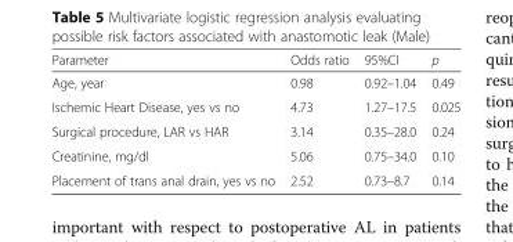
<table><thead><tr><td>Parameter</td><td>Odds ratio</td><td>95%CI</td><td>p</td></tr></thead><tbody><tr><td>Age, year</td><td>0.98</td><td>0.92–1.04</td><td>0.49</td></tr><tr><td>Ischemic Heart Disease, yes vs no</td><td>4.73</td><td>1.27–17.5</td><td>0.025</td></tr><tr><td>Surgical procedure, LAR vs HAR</td><td>3.14</td><td>0.35–28.0</td><td>0.24</td></tr><tr><td>Creatinine, mg/dl</td><td>5.06</td><td>0.75–34.0</td><td>0.10</td></tr><tr><td>Placement of trans anal drain, yes vs no</td><td>2.52</td><td>0.73–8.7</td><td>0.14</td></tr></tbody></table>